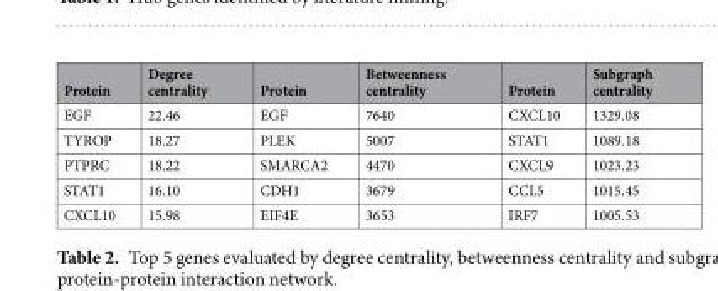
<table><thead><tr><td>Protein</td><td>Degree centrality</td><td>Protein</td><td>Betweenness centrality</td><td>Protein</td><td>Subgraph centrality</td></tr></thead><tbody><tr><td>EGF</td><td>22.46</td><td>EGF</td><td>7640</td><td>CXCL10</td><td>1329.08</td></tr><tr><td>TYROP</td><td>18.27</td><td>PLEK</td><td>5007</td><td>STAT1</td><td>1089.18</td></tr><tr><td>PTPRC</td><td>18.22</td><td>SMARCA2</td><td>4470</td><td>CXCL9</td><td>1023.23</td></tr><tr><td>STAT1</td><td>16.10</td><td>CDH1</td><td>3679</td><td>CCL5</td><td>1015.45</td></tr><tr><td>CXCL10</td><td>15.98</td><td>EIF4E</td><td>3653</td><td>IRF7</td><td>1005.53</td></tr></tbody></table>